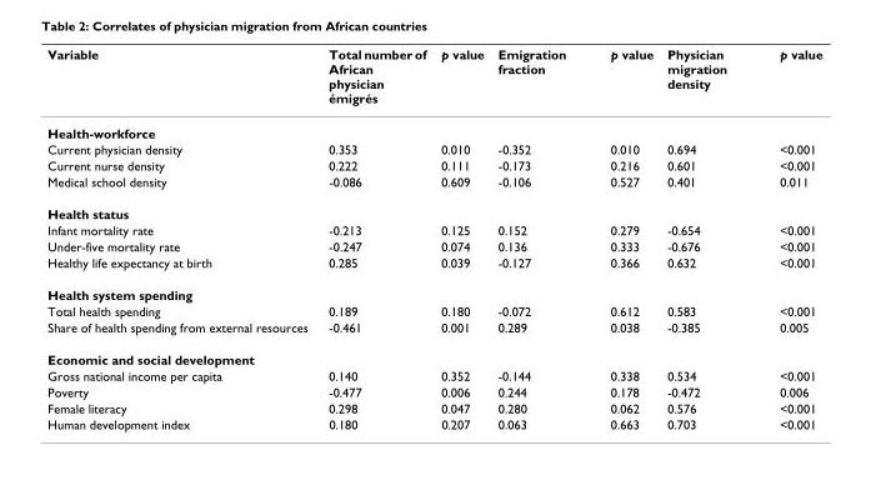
<table><thead><tr><td>Variable</td><td>Total number of African physician émigrés</td><td>p value</td><td>Emigration fraction</td><td>p value</td><td>Physician migration density</td><td>p value</td></tr></thead><tbody><tr><td colspan="7">Health-workforce</td></tr><tr><td>Current physician density</td><td>0.353</td><td>0.010</td><td>-0.352</td><td>0.010</td><td>0.694</td><td>&lt;0.001</td></tr><tr><td>Current nurse density</td><td>0.222</td><td>0.111</td><td>-0.173</td><td>0.216</td><td>0.601</td><td>&lt;0.001</td></tr><tr><td>Medical school density</td><td>-0.086</td><td>0.609</td><td>-0.106</td><td>0.527</td><td>0.401</td><td>0.011</td></tr><tr><td colspan="7">Health status</td></tr><tr><td>Infant mortality rate</td><td>-0.213</td><td>0.125</td><td>0.152</td><td>0.279</td><td>-0.654</td><td>&lt;0.001</td></tr><tr><td>Under-five mortality rate</td><td>-0.247</td><td>0.074</td><td>0.136</td><td>0.333</td><td>-0.676</td><td>&lt;0.001</td></tr><tr><td>Healthy life expectancy at birth</td><td>0.285</td><td>0.039</td><td>-0.127</td><td>0.366</td><td>0.632</td><td>&lt;0.001</td></tr><tr><td colspan="7">Health system spending</td></tr><tr><td>Total health spending</td><td>0.189</td><td>0.180</td><td>-0.072</td><td>0.612</td><td>0.583</td><td>&lt;0.001</td></tr><tr><td>Share of health spending from external resources</td><td>-0.461</td><td>0.001</td><td>0.289</td><td>0.038</td><td>-0.385</td><td>0.005</td></tr><tr><td colspan="7">Economic and social development</td></tr><tr><td>Gross national income per capita</td><td>0.140</td><td>0.352</td><td>-0.144</td><td>0.338</td><td>0.534</td><td>&lt;0.001</td></tr><tr><td>Poverty</td><td>-0.477</td><td>0.006</td><td>0.244</td><td>0.178</td><td>-0.472</td><td>0.006</td></tr><tr><td>Female literacy</td><td>0.298</td><td>0.047</td><td>0.280</td><td>0.062</td><td>0.576</td><td>&lt;0.001</td></tr><tr><td>Human development index</td><td>0.180</td><td>0.207</td><td>0.063</td><td>0.663</td><td>0.703</td><td>&lt;0.001</td></tr></tbody></table>